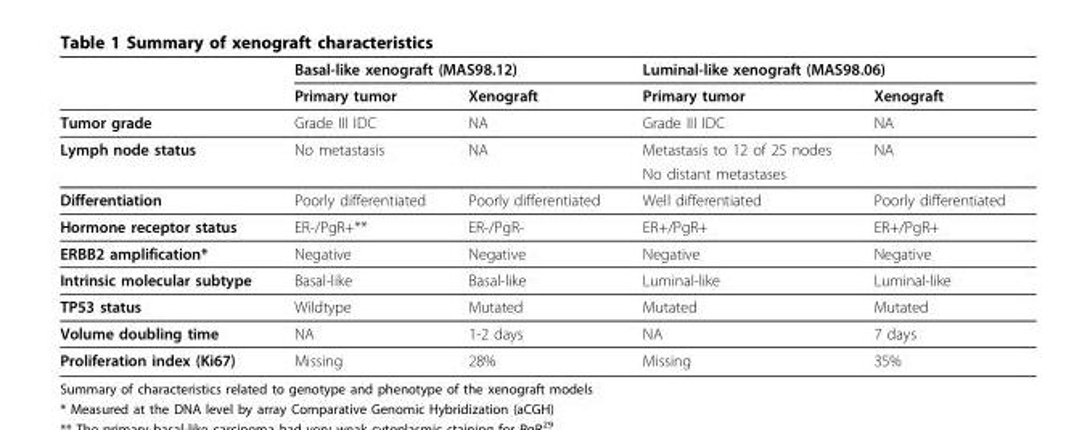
<table><thead><tr><td rowspan="2"></td><td colspan="2">Basal-like xenograft (MAS98.12)</td><td colspan="2">Luminal-like xenograft (MAS98.06)</td></tr><tr><td>Primary tumor</td><td>Xenograft</td><td>Primary tumor</td><td>Xenograft</td></tr></thead><tbody><tr><td>Tumor grade</td><td>Grade III IDC</td><td>NA</td><td>Grade III IDC</td><td>NA</td></tr><tr><td rowspan="2">Lymph node status</td><td>No metastasis</td><td>NA</td><td>Metastasis to 12 of 25 nodes</td><td>NA</td></tr><tr><td></td><td></td><td>No distant metastases</td><td></td></tr><tr><td>Differentiation</td><td>Poorly differentiated</td><td>Poorly differentiated</td><td>Well differentiated</td><td>Poorly differentiated</td></tr><tr><td>Hormone receptor status</td><td>ER-/PgR+**</td><td>ER-/PgR-</td><td>ER+/PgR+</td><td>ER+/PgR+</td></tr><tr><td>ERBB2 amplification*</td><td>Negative</td><td>Negative</td><td>Negative</td><td>Negative</td></tr><tr><td>Intrinsic molecular subtype</td><td>Basal-like</td><td>Basal-like</td><td>Luminal-like</td><td>Luminal-like</td></tr><tr><td>TP53 status</td><td>Wildtype</td><td>Mutated</td><td>Mutated</td><td>Mutated</td></tr><tr><td>Volume doubling time</td><td>NA</td><td>1-2 days</td><td>NA</td><td>7 days</td></tr><tr><td>Proliferation index (Ki67)</td><td>Missing</td><td>28%</td><td>Missing</td><td>35%</td></tr></tbody></table>